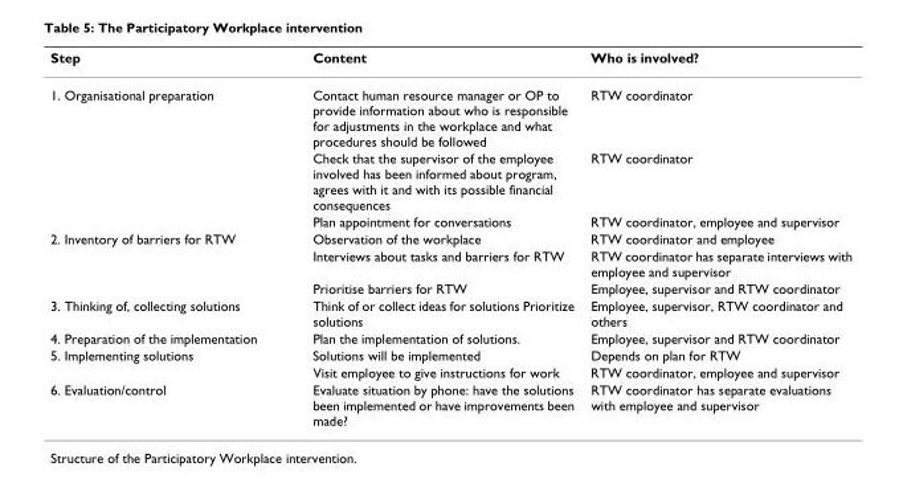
<table><thead><tr><td>Step</td><td>Content</td><td>Who is involved?</td></tr></thead><tbody><tr><td rowspan="3">1. Organisational preparation</td><td>Contact human resource manager or OP to provide information about who is responsible for adjustments in the workplace and what procedures should be followed</td><td>RTW coordinator</td></tr><tr><td>Check that the supervisor of the employee involved has been informed about program, agrees with it and with its possible financial consequences</td><td>RTW coordinator</td></tr><tr><td>Plan appointment for conversations</td><td>RTW coordinator, employee and supervisor</td></tr><tr><td rowspan="3">2. Inventory of barriers for RTW</td><td>Observation of the workplace</td><td>RTW coordinator and employee</td></tr><tr><td>Interviews about tasks and barriers for RTW</td><td>RTW coordinator has separate interviews with employee and supervisor</td></tr><tr><td>Prioritise barriers for RTW</td><td>Employee, supervisor and RTW coordinator</td></tr><tr><td>3. Thinking of, collecting solutions</td><td>Think of or collect ideas for solutions Prioritize solutions</td><td>Employee, supervisor, RTW coordinator and others</td></tr><tr><td>4. Preparation of the implementation</td><td>Plan the implementation of solutions.</td><td>Employee, supervisor and RTW coordinator</td></tr><tr><td rowspan="2">5. Implementing solutions</td><td>Solutions will be implemented</td><td>Depends on plan for RTW</td></tr><tr><td>Visit employee to give instructions for work</td><td>RTW coordinator, employee and supervisor</td></tr><tr><td>6. Evaluation/control</td><td>Evaluate situation by phone: have the solutions been implemented or have improvements been made?</td><td>RTW coordinator has separate evaluations with employee and supervisor</td></tr></tbody></table>